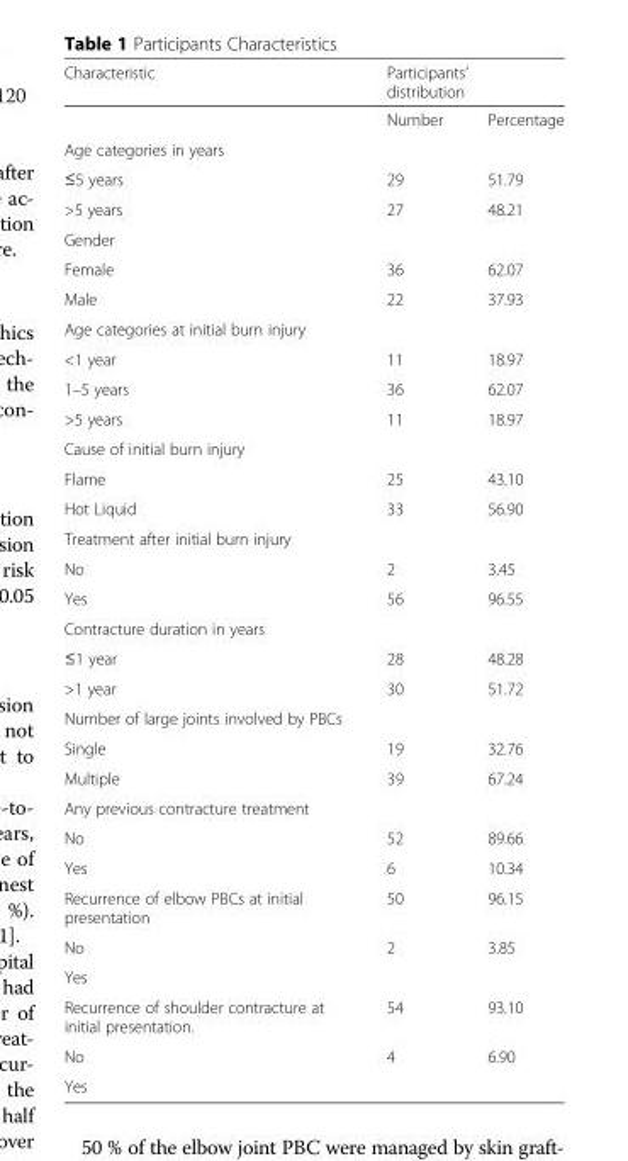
<table><thead><tr><td rowspan="2">Characteristic</td><td colspan="2">Participants’ distribution</td></tr><tr><td>Number</td><td>Percentage</td></tr></thead><tbody><tr><td colspan="3">Age categories in years</td></tr><tr><td>≤5 years</td><td>29</td><td>51.79</td></tr><tr><td>&gt;5 years</td><td>27</td><td>48.21</td></tr><tr><td colspan="3">Gender</td></tr><tr><td>Female</td><td>36</td><td>62.07</td></tr><tr><td>Male</td><td>22</td><td>37.93</td></tr><tr><td colspan="3">Age categories at initial burn injury</td></tr><tr><td>&lt;1 year</td><td>11</td><td>18.97</td></tr><tr><td>1–5 years</td><td>36</td><td>62.07</td></tr><tr><td>&gt;5 years</td><td>11</td><td>18.97</td></tr><tr><td colspan="3">Cause of initial burn injury</td></tr><tr><td>Flame</td><td>25</td><td>43.10</td></tr><tr><td>Hot Liquid</td><td>33</td><td>56.90</td></tr><tr><td colspan="3">Treatment after initial burn injury</td></tr><tr><td>No</td><td>2</td><td>3.45</td></tr><tr><td>Yes</td><td>56</td><td>96.55</td></tr><tr><td colspan="3">Contracture duration in years</td></tr><tr><td>≤1 year</td><td>28</td><td>48.28</td></tr><tr><td>&gt;1 year</td><td>30</td><td>51.72</td></tr><tr><td colspan="3">Number of large joints involved by PBCs</td></tr><tr><td>Single</td><td>19</td><td>32.76</td></tr><tr><td>Multiple</td><td>39</td><td>67.24</td></tr><tr><td colspan="3">Any previous contracture treatment</td></tr><tr><td>No</td><td>52</td><td>89.66</td></tr><tr><td>Yes</td><td>6</td><td>10.34</td></tr><tr><td>Recurrence of elbow PBCs at initial presentation</td><td>50</td><td>96.15</td></tr><tr><td>No</td><td>2</td><td>3.85</td></tr><tr><td colspan="3">Yes</td></tr><tr><td>Recurrence of shoulder contracture at initial presentation.</td><td>54</td><td>93.10</td></tr><tr><td>No</td><td>4</td><td>6.90</td></tr><tr><td>Yes</td><td></td><td></td></tr></tbody></table>